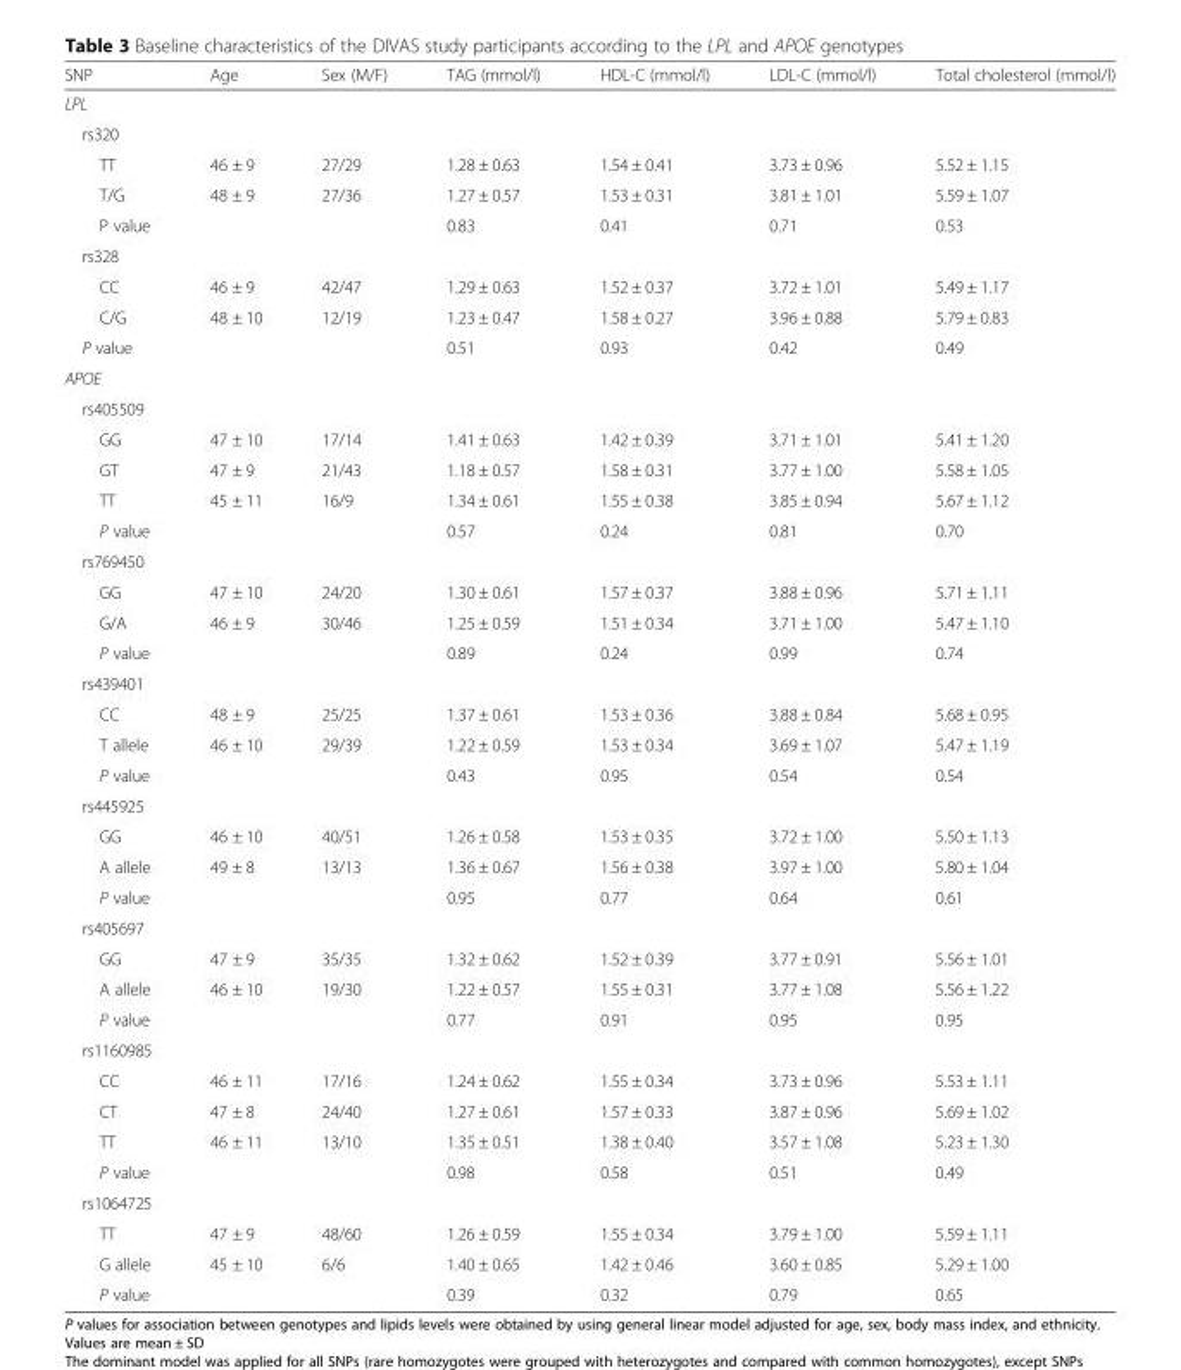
<table><thead><tr><td>SNP</td><td>Age</td><td>Sex (M/F)</td><td>TAG (mmol/l)</td><td>HDL-C (mmol/l)</td><td>LDL-C (mmol/l)</td><td>Total cholesterol (mmol/l)</td></tr></thead><tbody><tr><td colspan="7">LPL</td></tr><tr><td colspan="7">rs320</td></tr><tr><td>TT</td><td>46 ± 9</td><td>27/29</td><td>1.28 ± 0.63</td><td>1.54 ± 0.41</td><td>3.73 ± 0.96</td><td>5.52 ± 1.15</td></tr><tr><td>T/G</td><td>48 ± 9</td><td>27/36</td><td>1.27 ± 0.57</td><td>1.53 ± 0.31</td><td>3.81 ± 1.01</td><td>5.59 ± 1.07</td></tr><tr><td>P value</td><td></td><td></td><td>0.83</td><td>0.41</td><td>0.71</td><td>0.53</td></tr><tr><td colspan="7">rs328</td></tr><tr><td>CC</td><td>46 ± 9</td><td>42/47</td><td>1.29 ± 0.63</td><td>1.52 ± 0.37</td><td>3.72 ± 1.01</td><td>5.49 ± 1.17</td></tr><tr><td>C/G</td><td>48 ± 10</td><td>12/19</td><td>1.23 ± 0.47</td><td>1.58 ± 0.27</td><td>3.96 ± 0.88</td><td>5.79 ± 0.83</td></tr><tr><td>P value</td><td></td><td></td><td>0.51</td><td>0.93</td><td>0.42</td><td>0.49</td></tr><tr><td colspan="7">APOE</td></tr><tr><td colspan="7">rs405509</td></tr><tr><td>GG</td><td>47 ± 10</td><td>17/14</td><td>1.41 ± 0.63</td><td>1.42 ± 0.39</td><td>3.71 ± 1.01</td><td>5.41 ± 1.20</td></tr><tr><td>GT</td><td>47 ± 9</td><td>21/43</td><td>1.18 ± 0.57</td><td>1.58 ± 0.31</td><td>3.77 ± 1.00</td><td>5.58 ± 1.05</td></tr><tr><td>TT</td><td>45 ± 11</td><td>16/9</td><td>1.34 ± 0.61</td><td>1.55 ± 0.38</td><td>3.85 ± 0.94</td><td>5.67 ± 1.12</td></tr><tr><td>P value</td><td></td><td></td><td>0.57</td><td>0.24</td><td>0.81</td><td>0.70</td></tr><tr><td colspan="7">rs769450</td></tr><tr><td>GG</td><td>47 ± 10</td><td>24/20</td><td>1.30 ± 0.61</td><td>1.57 ± 0.37</td><td>3.88 ± 0.96</td><td>5.71 ± 1.11</td></tr><tr><td>G/A</td><td>46 ± 9</td><td>30/46</td><td>1.25 ± 0.59</td><td>1.51 ± 0.34</td><td>3.71 ± 1.00</td><td>5.47 ± 1.10</td></tr><tr><td>P value</td><td></td><td></td><td>0.89</td><td>0.24</td><td>0.99</td><td>0.74</td></tr><tr><td colspan="7">rs439401</td></tr><tr><td>CC</td><td>48 ± 9</td><td>25/25</td><td>1.37 ± 0.61</td><td>1.53 ± 0.36</td><td>3.88 ± 0.84</td><td>5.68 ± 0.95</td></tr><tr><td>T allele</td><td>46 ± 10</td><td>29/39</td><td>1.22 ± 0.59</td><td>1.53 ± 0.34</td><td>3.69 ± 1.07</td><td>5.47 ± 1.19</td></tr><tr><td>P value</td><td></td><td></td><td>0.43</td><td>0.95</td><td>0.54</td><td>0.54</td></tr><tr><td colspan="7">rs445925</td></tr><tr><td>GG</td><td>46 ± 10</td><td>40/51</td><td>1.26 ± 0.58</td><td>1.53 ± 0.35</td><td>3.72 ± 1.00</td><td>5.50 ± 1.13</td></tr><tr><td>A allele</td><td>49 ± 8</td><td>13/13</td><td>1.36 ± 0.67</td><td>1.56 ± 0.38</td><td>3.97 ± 1.00</td><td>5.80 ± 1.04</td></tr><tr><td>P value</td><td></td><td></td><td>0.95</td><td>0.77</td><td>0.64</td><td>0.61</td></tr><tr><td colspan="7">rs405697</td></tr><tr><td>GG</td><td>47 ± 9</td><td>35/35</td><td>1.32 ± 0.62</td><td>1.52 ± 0.39</td><td>3.77 ± 0.91</td><td>5.56 ± 1.01</td></tr><tr><td>A allele</td><td>46 ± 10</td><td>19/30</td><td>1.22 ± 0.57</td><td>1.55 ± 0.31</td><td>3.77 ± 1.08</td><td>5.56 ± 1.22</td></tr><tr><td>P value</td><td></td><td></td><td>0.77</td><td>0.91</td><td>0.95</td><td>0.95</td></tr><tr><td colspan="7">rs1160985</td></tr><tr><td>CC</td><td>46 ± 11</td><td>17/16</td><td>1.24 ± 0.62</td><td>1.55 ± 0.34</td><td>3.73 ± 0.96</td><td>5.53 ± 1.11</td></tr><tr><td>CT</td><td>47 ± 8</td><td>24/40</td><td>1.27 ± 0.61</td><td>1.57 ± 0.33</td><td>3.87 ± 0.96</td><td>5.69 ± 1.02</td></tr><tr><td>TT</td><td>46 ± 11</td><td>13/10</td><td>1.35 ± 0.51</td><td>1.38 ± 0.40</td><td>3.57 ± 1.08</td><td>5.23 ± 1.30</td></tr><tr><td>P value</td><td></td><td></td><td>0.98</td><td>0.58</td><td>0.51</td><td>0.49</td></tr><tr><td colspan="7">rs1064725</td></tr><tr><td>TT</td><td>47 ± 9</td><td>48/60</td><td>1.26 ± 0.59</td><td>1.55 ± 0.34</td><td>3.79 ± 1.00</td><td>5.59 ± 1.11</td></tr><tr><td>G allele</td><td>45 ± 10</td><td>6/6</td><td>1.40 ± 0.65</td><td>1.42 ± 0.46</td><td>3.60 ± 0.85</td><td>5.29 ± 1.00</td></tr><tr><td>P value</td><td></td><td></td><td>0.39</td><td>0.32</td><td>0.79</td><td>0.65</td></tr></tbody></table>